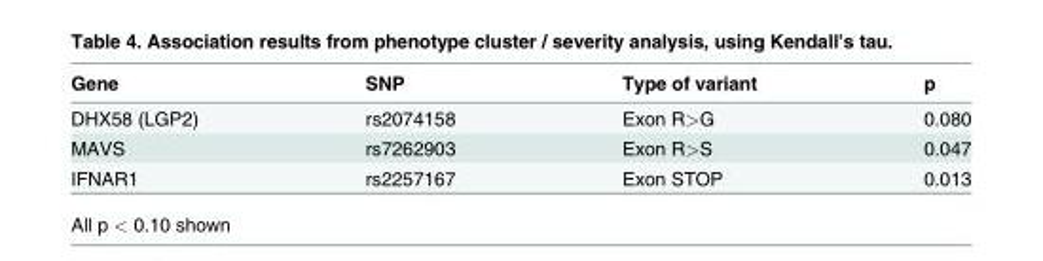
<table><thead><tr><td>Gene</td><td>SNP</td><td>Type of variant</td><td>p</td></tr></thead><tbody><tr><td>DHX58 (LGP2)</td><td>rs2074158</td><td>Exon R&gt;G</td><td>0.080</td></tr><tr><td>MAVS</td><td>rs7262903</td><td>Exon R&gt;S</td><td>0.047</td></tr><tr><td>IFNAR1</td><td>rs2257167</td><td>Exon STOP</td><td>0.013</td></tr></tbody></table>